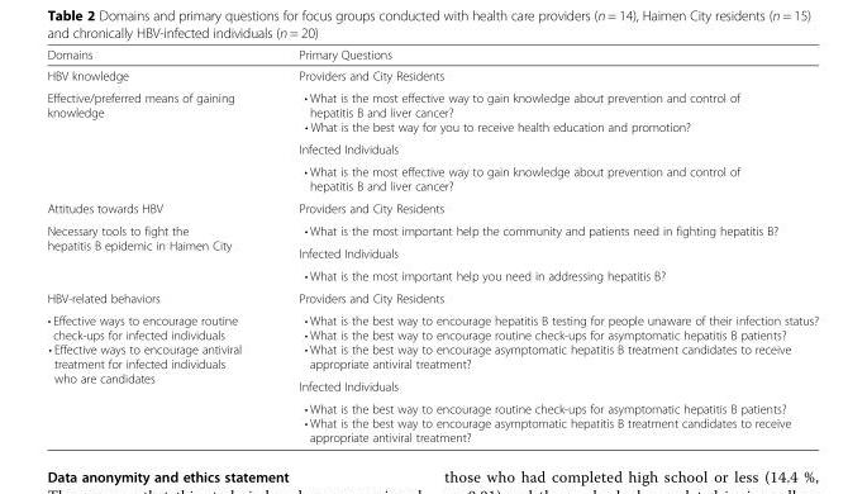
<table><thead><tr><td>Domains</td><td>Primary Questions</td></tr></thead><tbody><tr><td>HBV knowledge</td><td>Providers and City Residents</td></tr><tr><td rowspan="3">Effective/preferred means of gaining knowledge</td><td>• What is the most effective way to gain knowledge about prevention and control of hepatitis B and liver cancer? • What is the best way for you to receive health education and promotion?</td></tr><tr><td>Infected Individuals</td></tr><tr><td>• What is the most effective way to gain knowledge about prevention and control of hepatitis B and liver cancer?</td></tr><tr><td>Attitudes towards HBV</td><td>Providers and City Residents</td></tr><tr><td rowspan="3">Necessary tools to fight the hepatitis B epidemic in Haimen City</td><td>• What is the most important help the community and patients need in fighting hepatitis B?</td></tr><tr><td>Infected Individuals</td></tr><tr><td>• What is the most important help you need in addressing hepatitis B?</td></tr><tr><td>HBV-related behaviors</td><td>Providers and City Residents</td></tr><tr><td rowspan="3">• Effective ways to encourage routine check-ups for infected individuals • Effective ways to encourage antiviral treatment for infected individuals who are candidates</td><td>• What is the best way to encourage hepatitis B testing for people unaware of their infection status? • What is the best way to encourage routine check-ups for asymptomatic hepatitis B patients? • What is the best way to encourage asymptomatic hepatitis B treatment candidates to receive appropriate antiviral treatment?</td></tr><tr><td>Infected Individuals</td></tr><tr><td>• What is the best way to encourage routine check-ups for asymptomatic hepatitis B patients? • What is the best way to encourage asymptomatic hepatitis B treatment candidates to receive appropriate antiviral treatment?</td></tr></tbody></table>